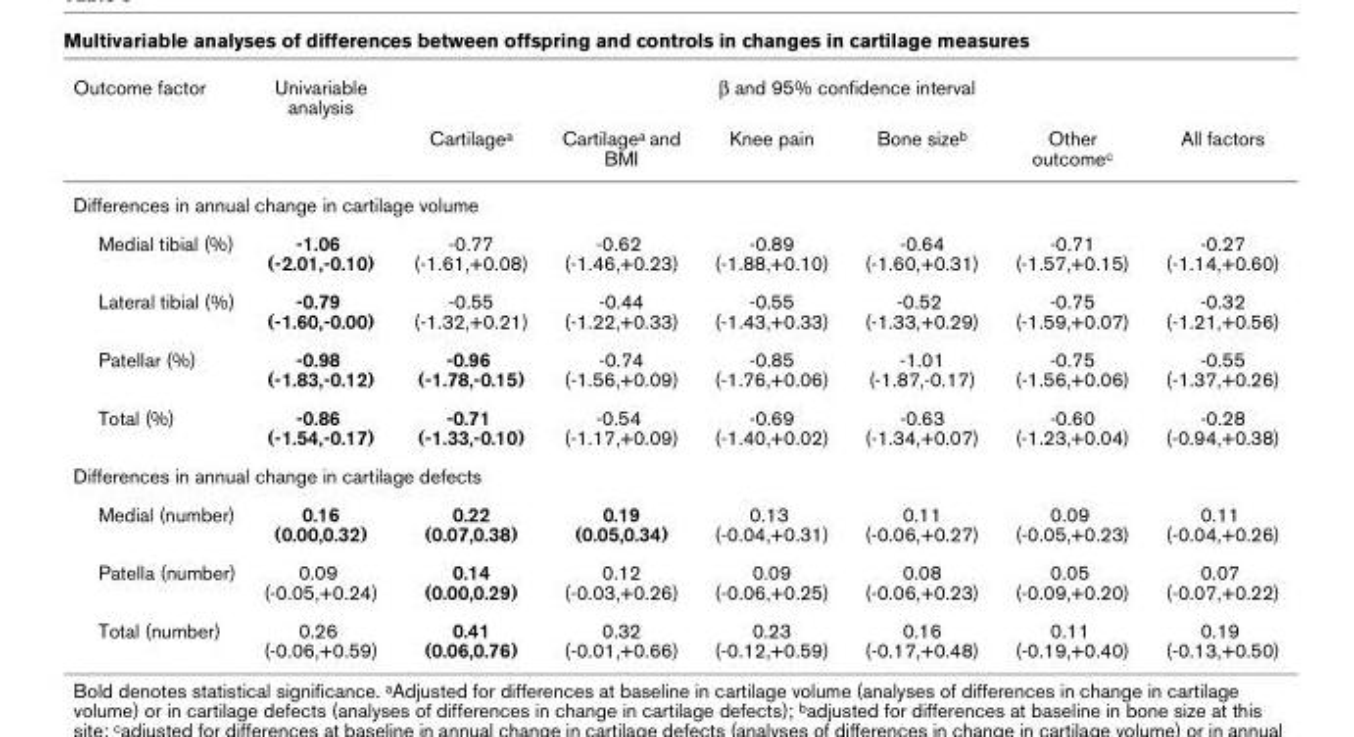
<table><thead><tr><td rowspan="2">Outcome factor</td><td rowspan="2">Univariable analysis</td><td colspan="6">β and 95% confidence interval</td></tr><tr><td>Cartilagea</td><td>Cartilagea and BMI</td><td>Knee pain</td><td>Bone sizeb</td><td>Other outcomec</td><td>All factors</td></tr></thead><tbody><tr><td colspan="8">Differences in annual change in cartilage volume</td></tr><tr><td>Medial tibial (%)</td><td>-1.06 (-2.01,-0.10)</td><td>-0.77 (-1.61,+0.08)</td><td>-0.62 (-1.46,+0.23)</td><td>-0.89 (-1.88,+0.10)</td><td>-0.64 (-1.60,+0.31)</td><td>-0.71 (-1.57,+0.15)</td><td>-0.27 (-1.14,+0.60)</td></tr><tr><td>Lateral tibial (%)</td><td>-0.79 (-1.60,-0.00)</td><td>-0.55 (-1.32,+0.21)</td><td>-0.44 (-1.22,+0.33)</td><td>-0.55 (-1.43,+0.33)</td><td>-0.52 (-1.33,+0.29)</td><td>-0.75 (-1.59,+0.07)</td><td>-0.32 (-1.21,+0.56)</td></tr><tr><td>Patellar (%)</td><td>-0.98 (-1.83,-0.12)</td><td>-0.96 (-1.78,-0.15)</td><td>-0.74 (-1.56,+0.09)</td><td>-0.85 (-1.76,+0.06)</td><td>-1.01 (-1.87,-0.17)</td><td>-0.75 (-1.56,+0.06)</td><td>-0.55 (-1.37,+0.26)</td></tr><tr><td>Total (%)</td><td>-0.86 (-1.54,-0.17)</td><td>-0.71 (-1.33,-0.10)</td><td>-0.54 (-1.17,+0.09)</td><td>-0.69 (-1.40,+0.02)</td><td>-0.63 (-1.34,+0.07)</td><td>-0.60 (-1.23,+0.04)</td><td>-0.28 (-0.94,+0.38)</td></tr><tr><td colspan="8">Differences in annual change in cartilage defects</td></tr><tr><td>Medial (number)</td><td>0.16 (0.00,0.32)</td><td>0.22 (0.07,0.38)</td><td>0.19 (0.05,0.34)</td><td>0.13 (-0.04,+0.31)</td><td>0.11 (-0.06,+0.27)</td><td>0.09 (-0.05,+0.23)</td><td>0.11 (-0.04,+0.26)</td></tr><tr><td>Patella (number)</td><td>0.09 (-0.05,+0.24)</td><td>0.14 (0.00,0.29)</td><td>0.12 (-0.03,+0.26)</td><td>0.09 (-0.06,+0.25)</td><td>0.08 (-0.06,+0.23)</td><td>0.05 (-0.09,+0.20)</td><td>0.07 (-0.07,+0.22)</td></tr><tr><td>Total (number)</td><td>0.26 (-0.06,+0.59)</td><td>0.41 (0.06,0.76)</td><td>0.32 (-0.01,+0.66)</td><td>0.23 (-0.12,+0.59)</td><td>0.16 (-0.17,+0.48)</td><td>0.11 (-0.19,+0.40)</td><td>0.19 (-0.13,+0.50)</td></tr></tbody></table>